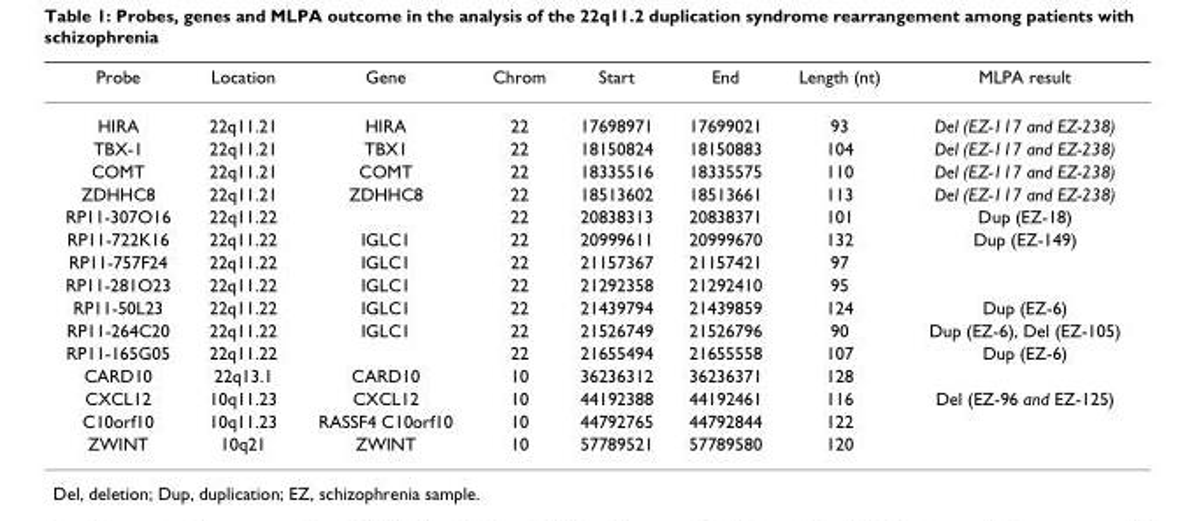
<table><thead><tr><td>Probe</td><td>Location</td><td>Gene</td><td>Chrom</td><td>Start</td><td>End</td><td>Length (nt)</td><td>MLPA result</td></tr></thead><tbody><tr><td>HIRA</td><td>22q11.21</td><td>HIRA</td><td>22</td><td>17698971</td><td>17699021</td><td>93</td><td>Del (EZ-117 and EZ-238)</td></tr><tr><td>TBX-1</td><td>22q11.21</td><td>TBX1</td><td>22</td><td>18150824</td><td>18150883</td><td>104</td><td>Del (EZ-117 and EZ-238)</td></tr><tr><td>COMT</td><td>22q11.21</td><td>COMT</td><td>22</td><td>18335516</td><td>18335575</td><td>110</td><td>Del (EZ-117 and EZ-238)</td></tr><tr><td>ZDHHC8</td><td>22q11.21</td><td>ZDHHC8</td><td>22</td><td>18513602</td><td>18513661</td><td>113</td><td>Del (EZ-117 and EZ-238)</td></tr><tr><td>RP11-307O16</td><td>22q11.22</td><td></td><td>22</td><td>20838313</td><td>20838371</td><td>101</td><td>Dup (EZ-18)</td></tr><tr><td>RP11-722K16</td><td>22q11.22</td><td>IGLC1</td><td>22</td><td>20999611</td><td>20999670</td><td>132</td><td>Dup (EZ-149)</td></tr><tr><td>RP11-757F24</td><td>22q11.22</td><td>IGLC1</td><td>22</td><td>21157367</td><td>21157421</td><td>97</td><td></td></tr><tr><td>RP11-281O23</td><td>22q11.22</td><td>IGLC1</td><td>22</td><td>21292358</td><td>21292410</td><td>95</td><td></td></tr><tr><td>RP11-50L23</td><td>22q11.22</td><td>IGLC1</td><td>22</td><td>21439794</td><td>21439859</td><td>124</td><td>Dup (EZ-6)</td></tr><tr><td>RP11-264C20</td><td>22q11.22</td><td>IGLC1</td><td>22</td><td>21526749</td><td>21526796</td><td>90</td><td>Dup (EZ-6), Del (EZ-105)</td></tr><tr><td>RP11-165G05</td><td>22q11.22</td><td></td><td>22</td><td>21655494</td><td>21655558</td><td>107</td><td>Dup (EZ-6)</td></tr><tr><td>CARD10</td><td>22q13.1</td><td>CARD10</td><td>10</td><td>36236312</td><td>36236371</td><td>128</td><td></td></tr><tr><td>CXCL12</td><td>10q11.23</td><td>CXCL12</td><td>10</td><td>44192388</td><td>44192461</td><td>116</td><td>Del (EZ-96 and EZ-125)</td></tr><tr><td>C10orf10</td><td>10q11.23</td><td>RASSF4 C10orf10</td><td>10</td><td>44792765</td><td>44792844</td><td>122</td><td></td></tr><tr><td>ZWINT</td><td>10q21</td><td>ZWINT</td><td>10</td><td>57789521</td><td>57789580</td><td>120</td><td></td></tr></tbody></table>